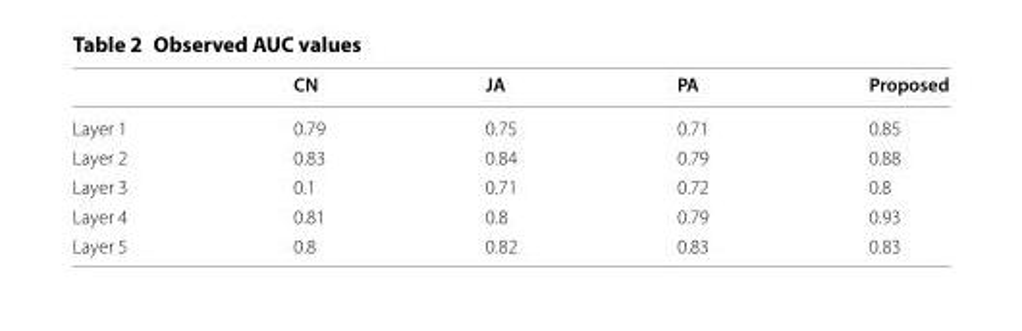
<table><thead><tr><td></td><td>CN</td><td>JA</td><td>PA</td><td>Proposed</td></tr></thead><tbody><tr><td>Layer 1</td><td>0.79</td><td>0.75</td><td>0.71</td><td>0.85</td></tr><tr><td>Layer 2</td><td>0.83</td><td>0.84</td><td>0.79</td><td>0.88</td></tr><tr><td>Layer 3</td><td>0.1</td><td>0.71</td><td>0.72</td><td>0.8</td></tr><tr><td>Layer 4</td><td>0.81</td><td>0.8</td><td>0.79</td><td>0.93</td></tr><tr><td>Layer 5</td><td>0.8</td><td>0.82</td><td>0.83</td><td>0.83</td></tr></tbody></table>